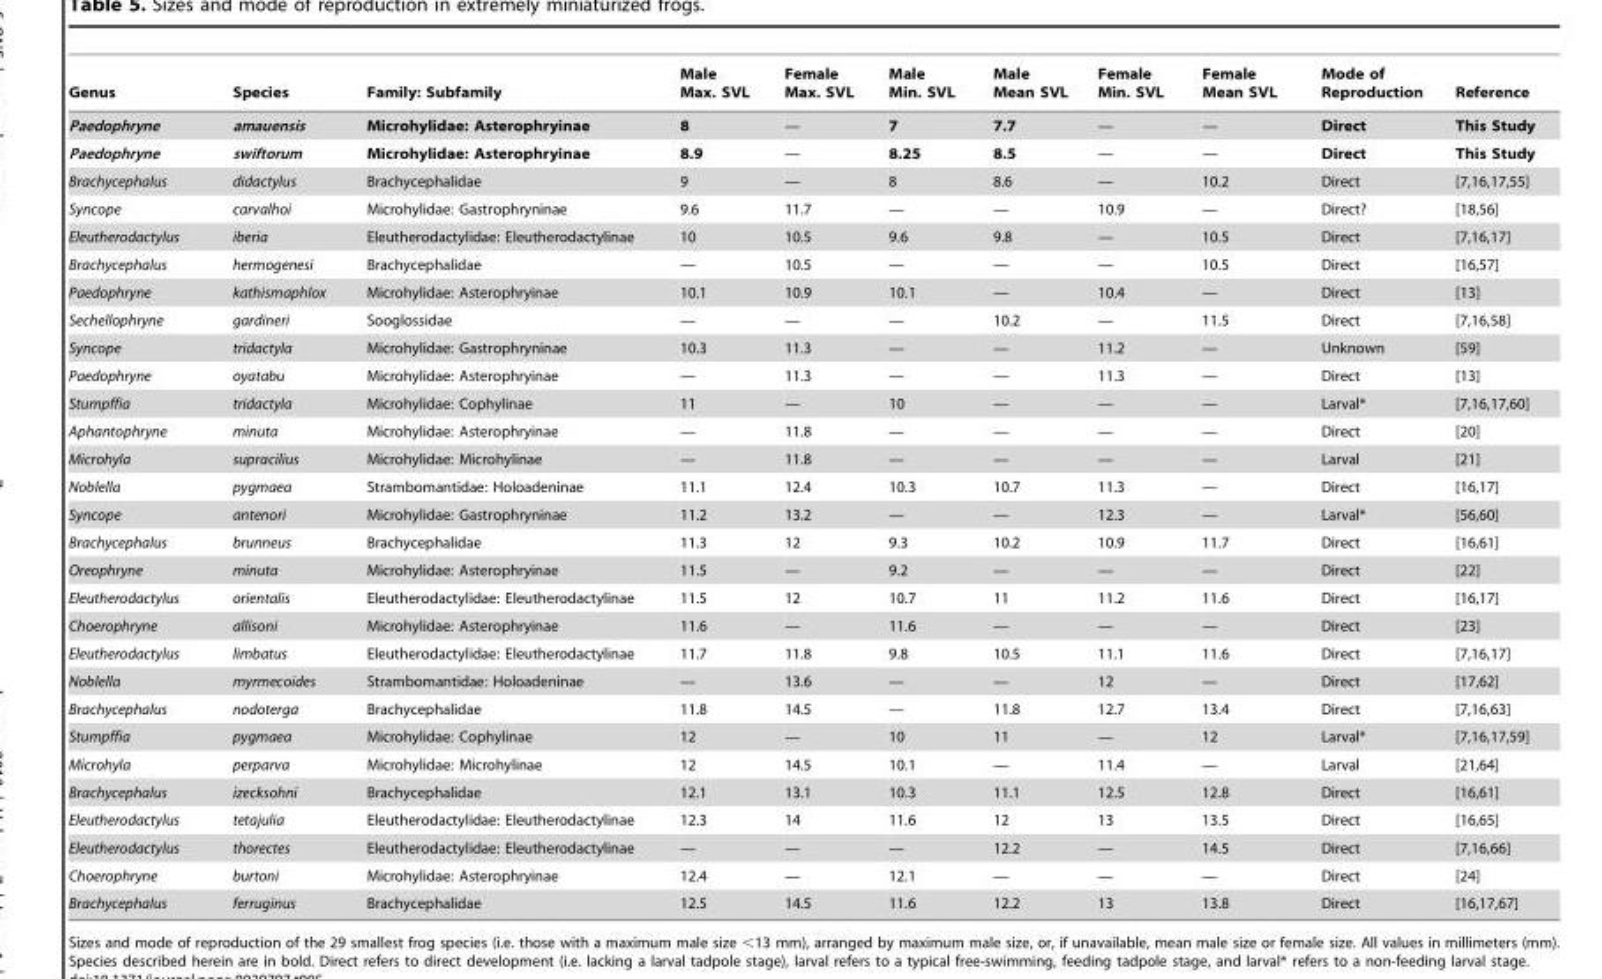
<table><thead><tr><td>Genus</td><td>Species</td><td>Family: Subfamily</td><td>Male Max. SVL</td><td>Female Max. SVL</td><td>Male Min. SVL</td><td>Male Mean SVL</td><td>Female Min. SVL</td><td>Female Mean SVL</td><td>Mode of Reproduction</td><td>Reference</td></tr></thead><tbody><tr><td>Paedophryne</td><td>amauensis</td><td>Microhylidae: Asterophryinae</td><td>8</td><td>—</td><td>7</td><td>7.7</td><td>—</td><td>—</td><td>Direct</td><td>This Study</td></tr><tr><td>Paedophryne</td><td>swiftorum</td><td>Microhylidae: Asterophryinae</td><td>8.9</td><td>—</td><td>8.25</td><td>8.5</td><td>—</td><td>—</td><td>Direct</td><td>This Study</td></tr><tr><td>Brachycephalus</td><td>didactylus</td><td>Brachycephalidae</td><td>9</td><td>—</td><td>8</td><td>8.6</td><td>—</td><td>10.2</td><td>Direct</td><td>[7,16,17,55]</td></tr><tr><td>Syncope</td><td>carvalhoi</td><td>Microhylidae: Gastrophryninae</td><td>9.6</td><td>11.7</td><td>—</td><td>—</td><td>10.9</td><td>—</td><td>Direct?</td><td>[18,56]</td></tr><tr><td>Eleutherodactylus</td><td>iberia</td><td>Eleutherodactylidae: Eleutherodactylinae</td><td>10</td><td>10.5</td><td>9.6</td><td>9.8</td><td>—</td><td>10.5</td><td>Direct</td><td>[7,16,17]</td></tr><tr><td>Brachycephalus</td><td>hermogenesi</td><td>Brachycephalidae</td><td>—</td><td>10.5</td><td>—</td><td>—</td><td>—</td><td>10.5</td><td>Direct</td><td>[16,57]</td></tr><tr><td>Paedophryne</td><td>kathismaphlox</td><td>Microhylidae: Asterophryinae</td><td>10.1</td><td>10.9</td><td>10.1</td><td>—</td><td>10.4</td><td>—</td><td>Direct</td><td>[13]</td></tr><tr><td>Sechellophryne</td><td>gardineri</td><td>Sooglossidae</td><td>—</td><td>—</td><td>—</td><td>10.2</td><td>—</td><td>11.5</td><td>Direct</td><td>[7,16,58]</td></tr><tr><td>Syncope</td><td>tridactyla</td><td>Microhylidae: Gastrophryninae</td><td>10.3</td><td>11.3</td><td>—</td><td>—</td><td>11.2</td><td>—</td><td>Unknown</td><td>[59]</td></tr><tr><td>Paedophryne</td><td>oyatabu</td><td>Microhylidae: Asterophryinae</td><td>—</td><td>11.3</td><td>—</td><td>—</td><td>11.3</td><td>—</td><td>Direct</td><td>[13]</td></tr><tr><td>Stumpffia</td><td>tridactyla</td><td>Microhylidae: Cophylinae</td><td>11</td><td>—</td><td>10</td><td>—</td><td>—</td><td>—</td><td>Larval*</td><td>[7,16,17,60]</td></tr><tr><td>Aphantophryne</td><td>minuta</td><td>Microhylidae: Asterophryinae</td><td>—</td><td>11.8</td><td>—</td><td>—</td><td>—</td><td>—</td><td>Direct</td><td>[20]</td></tr><tr><td>Microhyla</td><td>supracilius</td><td>Microhylidae: Microhylinae</td><td>—</td><td>11.8</td><td>—</td><td>—</td><td>—</td><td>—</td><td>Larval</td><td>[21]</td></tr><tr><td>Noblella</td><td>pygmaea</td><td>Strambomantidae: Holoadeninae</td><td>11.1</td><td>12.4</td><td>10.3</td><td>10.7</td><td>11.3</td><td>—</td><td>Direct</td><td>[16,17]</td></tr><tr><td>Syncope</td><td>antenori</td><td>Microhylidae: Gastrophryninae</td><td>11.2</td><td>13.2</td><td>—</td><td>—</td><td>12.3</td><td>—</td><td>Larval*</td><td>[56,60]</td></tr><tr><td>Brachycephalus</td><td>brunneus</td><td>Brachycephalidae</td><td>11.3</td><td>12</td><td>9.3</td><td>10.2</td><td>10.9</td><td>11.7</td><td>Direct</td><td>[16,61]</td></tr><tr><td>Oreophryne</td><td>minuta</td><td>Microhylidae: Asterophryinae</td><td>11.5</td><td>—</td><td>9.2</td><td>—</td><td>—</td><td>—</td><td>Direct</td><td>[22]</td></tr><tr><td>Eleutherodactylus</td><td>orientalis</td><td>Eleutherodactylidae: Eleutherodactylinae</td><td>11.5</td><td>12</td><td>10.7</td><td>11</td><td>11.2</td><td>11.6</td><td>Direct</td><td>[16,17]</td></tr><tr><td>Choerophryne</td><td>allisoni</td><td>Microhylidae: Asterophryinae</td><td>11.6</td><td>—</td><td>11.6</td><td>—</td><td>—</td><td>—</td><td>Direct</td><td>[23]</td></tr><tr><td>Eleutherodactylus</td><td>limbatus</td><td>Eleutherodactylidae: Eleutherodactylinae</td><td>11.7</td><td>11.8</td><td>9.8</td><td>10.5</td><td>11.1</td><td>11.6</td><td>Direct</td><td>[7,16,17]</td></tr><tr><td>Noblella</td><td>myrmecoides</td><td>Strambomantidae: Holoadeninae</td><td>—</td><td>13.6</td><td>—</td><td>—</td><td>12</td><td>—</td><td>Direct</td><td>[17,62]</td></tr><tr><td>Brachycephalus</td><td>nodoterga</td><td>Brachycephalidae</td><td>11.8</td><td>14.5</td><td>—</td><td>11.8</td><td>12.7</td><td>13.4</td><td>Direct</td><td>[7,16,63]</td></tr><tr><td>Stumpffia</td><td>pygmaea</td><td>Microhylidae: Cophylinae</td><td>12</td><td>—</td><td>10</td><td>11</td><td>—</td><td>12</td><td>Larval*</td><td>[7,16,17,59]</td></tr><tr><td>Microhyla</td><td>perparva</td><td>Microhylidae: Microhylinae</td><td>12</td><td>14.5</td><td>10.1</td><td>—</td><td>11.4</td><td>—</td><td>Larval</td><td>[21,64]</td></tr><tr><td>Brachycephalus</td><td>izecksohni</td><td>Brachycephalidae</td><td>12.1</td><td>13.1</td><td>10.3</td><td>11.1</td><td>12.5</td><td>12.8</td><td>Direct</td><td>[16,61]</td></tr><tr><td>Eleutherodactylus</td><td>tetajulia</td><td>Eleutherodactylidae: Eleutherodactylinae</td><td>12.3</td><td>14</td><td>11.6</td><td>12</td><td>13</td><td>13.5</td><td>Direct</td><td>[16,65]</td></tr><tr><td>Eleutherodactylus</td><td>thorectes</td><td>Eleutherodactylidae: Eleutherodactylinae</td><td>—</td><td>—</td><td>—</td><td>12.2</td><td>—</td><td>14.5</td><td>Direct</td><td>[7,16,66]</td></tr><tr><td>Choerophryne</td><td>burtoni</td><td>Microhylidae: Asterophryinae</td><td>12.4</td><td>—</td><td>12.1</td><td>—</td><td>—</td><td>—</td><td>Direct</td><td>[24]</td></tr><tr><td>Brachycephalus</td><td>ferruginus</td><td>Brachycephalidae</td><td>12.5</td><td>14.5</td><td>11.6</td><td>12.2</td><td>13</td><td>13.8</td><td>Direct</td><td>[16,17,67]</td></tr></tbody></table>